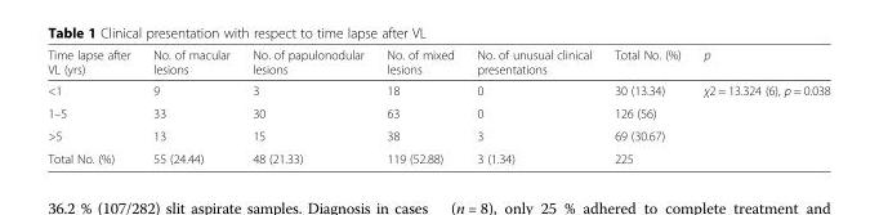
<table><thead><tr><td>Time lapse after VL (yrs)</td><td>No. of macular lesions</td><td>No. of papulonodular lesions</td><td>No. of mixed lesions</td><td>No. of unusual clinical presentations</td><td>Total No. (%)</td><td>p</td></tr></thead><tbody><tr><td>&lt;1</td><td>9</td><td>3</td><td>18</td><td>0</td><td>30 (13.34)</td><td rowspan="3">χ2 = 13.324 (6), p = 0.038</td></tr><tr><td>1–5</td><td>33</td><td>30</td><td>63</td><td>0</td><td>126 (56)</td></tr><tr><td>&gt;5</td><td>13</td><td>15</td><td>38</td><td>3</td><td>69 (30.67)</td></tr><tr><td>Total No. (%)</td><td>55 (24.44)</td><td>48 (21.33)</td><td>119 (52.88)</td><td>3 (1.34)</td><td>225</td><td></td></tr></tbody></table>